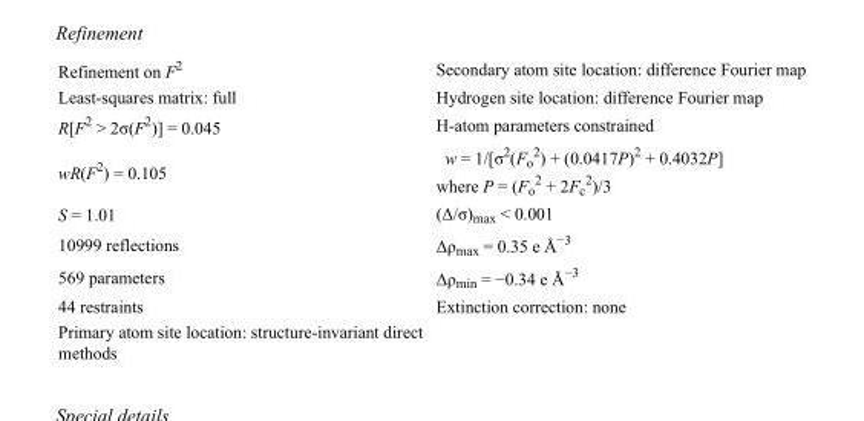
<table><tbody><tr><td>Refinement on F<sup>2</sup></td><td>Secondary atom site location: difference Fourier map</td></tr><tr><td>Least-squares matrix: full</td><td>Hydrogen site location: difference Fourier map</td></tr><tr><td>R[F<sup>2</sup> &gt; 2σ(F<sup>2</sup>)] = 0.045</td><td>H-atom parameters constrained</td></tr><tr><td>wR(F<sup>2</sup>) = 0.105</td><td>w = 1/[σ<sup>2</sup>(F<sub>o</sub> <sup>2</sup>) + (0.0417P)<sup>2</sup> + 0.4032P] where P = (F<sub>o</sub> <sup>2</sup> + 2F<sub>c</sub> <sup>2</sup>)/3</td></tr><tr><td>S = 1.01</td><td>(Δ/σ)<sub>max</sub> &lt; 0.001</td></tr><tr><td>10999 reflections</td><td>Δρ<sub>max</sub> = 0.35 e Å<sup>−3</sup></td></tr><tr><td>569 parameters</td><td>Δρ<sub>min</sub> = −0.34 e Å<sup>−3</sup></td></tr><tr><td>44 restraints</td><td>Extinction correction: none</td></tr><tr><td>Primary atom site location: structure-invariant direct methods</td><td></td></tr></tbody></table>